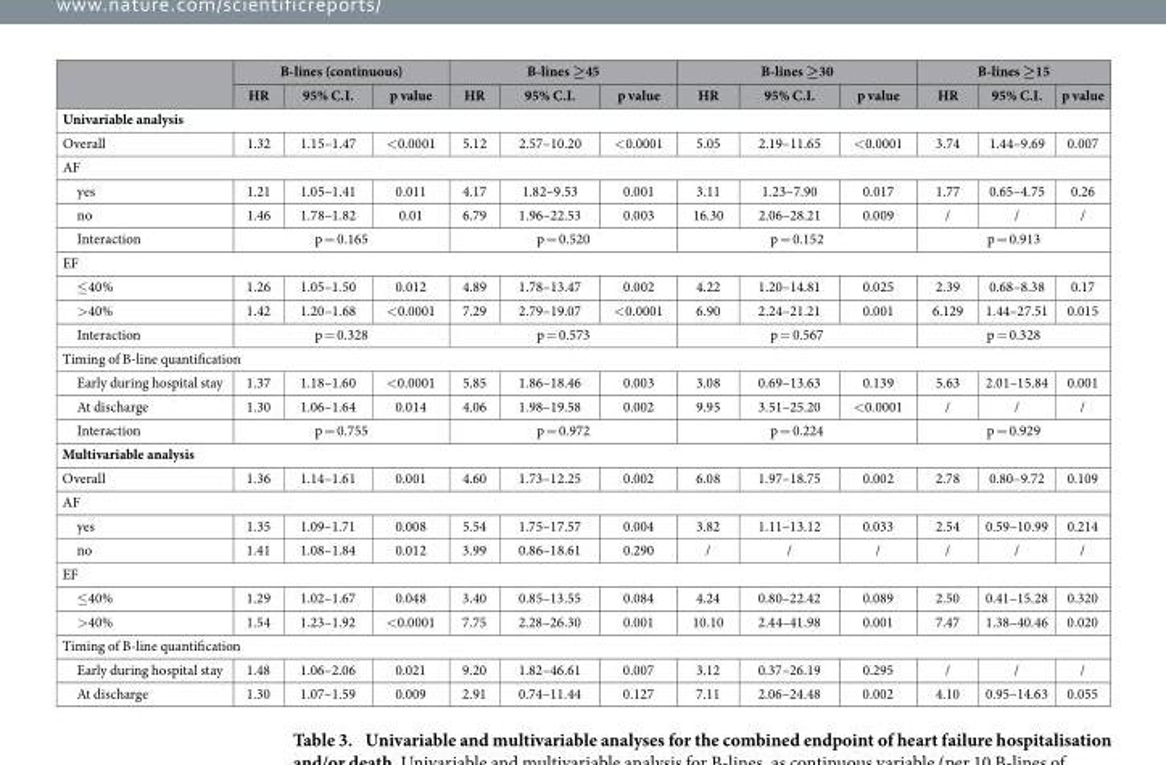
<table><thead><tr><td rowspan="2"></td><td colspan="3">B-lines (continuous)</td><td colspan="3">B-lines ≥45</td><td colspan="3">B-lines ≥30</td><td colspan="3">B-lines ≥15</td></tr><tr><td>HR</td><td>95% C.I.</td><td>p value</td><td>HR</td><td>95% C.I.</td><td>p value</td><td>HR</td><td>95% C.I.</td><td>p value</td><td>HR</td><td>95% C.I.</td><td>p value</td></tr></thead><tbody><tr><td colspan="13">Univariable analysis</td></tr><tr><td>Overall</td><td>1.32</td><td>1.15–1.47</td><td>&lt; 0.0001</td><td>5.12</td><td>2.57–10.20</td><td>&lt; 0.0001</td><td>5.05</td><td>2.19–11.65</td><td>&lt; 0.0001</td><td>3.74</td><td>1.44–9.69</td><td>0.007</td></tr><tr><td colspan="13">AF</td></tr><tr><td>yes</td><td>1.21</td><td>1.05–1.41</td><td>0.011</td><td>4.17</td><td>1.82–9.53</td><td>0.001</td><td>3.11</td><td>1.23–7.90</td><td>0.017</td><td>1.77</td><td>0.65–4.75</td><td>0.26</td></tr><tr><td>no</td><td>1.46</td><td>1.78–1.82</td><td>0.01</td><td>6.79</td><td>1.96–22.53</td><td>0.003</td><td>16.30</td><td>2.06–28.21</td><td>0.009</td><td>/</td><td>/</td><td>/</td></tr><tr><td>Interaction</td><td colspan="3">p = 0.165</td><td colspan="3">p = 0.520</td><td colspan="3">p = 0.152</td><td colspan="3">p = 0.913</td></tr><tr><td colspan="13">EF</td></tr><tr><td>≤ 40%</td><td>1.26</td><td>1.05–1.50</td><td>0.012</td><td>4.89</td><td>1.78–13.47</td><td>0.002</td><td>4.22</td><td>1.20–14.81</td><td>0.025</td><td>2.39</td><td>0.68–8.38</td><td>0.17</td></tr><tr><td>&gt; 40%</td><td>1.42</td><td>1.20–1.68</td><td>&lt; 0.0001</td><td>7.29</td><td>2.79–19.07</td><td>&lt; 0.0001</td><td>6.90</td><td>2.24–21.21</td><td>0.001</td><td>6.129</td><td>1.44–27.51</td><td>0.015</td></tr><tr><td>Interaction</td><td colspan="3">p = 0.328</td><td colspan="3">p = 0.573</td><td colspan="3">p = 0.567</td><td colspan="3">p = 0.328</td></tr><tr><td colspan="13">Timing of B-line quantification</td></tr><tr><td>Early during hospital stay</td><td>1.37</td><td>1.18–1.60</td><td>&lt; 0.0001</td><td>5.85</td><td>1.86–18.46</td><td>0.003</td><td>3.08</td><td>0.69–13.63</td><td>0.139</td><td>5.63</td><td>2.01–15.84</td><td>0.001</td></tr><tr><td>At discharge</td><td>1.30</td><td>1.06–1.64</td><td>0.014</td><td>4.06</td><td>1.98–19.58</td><td>0.002</td><td>9.95</td><td>3.51–25.20</td><td>&lt; 0.0001</td><td>/</td><td>/</td><td>/</td></tr><tr><td>Interaction</td><td colspan="3">p = 0.755</td><td colspan="3">p = 0.972</td><td colspan="3">p = 0.224</td><td colspan="3">p = 0.929</td></tr><tr><td colspan="13">Multivariable analysis</td></tr><tr><td>Overall</td><td>1.36</td><td>1.14–1.61</td><td>0.001</td><td>4.60</td><td>1.73–12.25</td><td>0.002</td><td>6.08</td><td>1.97–18.75</td><td>0.002</td><td>2.78</td><td>0.80–9.72</td><td>0.109</td></tr><tr><td colspan="13">AF</td></tr><tr><td>yes</td><td>1.35</td><td>1.09–1.71</td><td>0.008</td><td>5.54</td><td>1.75–17.57</td><td>0.004</td><td>3.82</td><td>1.11–13.12</td><td>0.033</td><td>2.54</td><td>0.59–10.99</td><td>0.214</td></tr><tr><td>no</td><td>1.41</td><td>1.08–1.84</td><td>0.012</td><td>3.99</td><td>0.86–18.61</td><td>0.290</td><td>/</td><td>/</td><td>/</td><td>/</td><td>/</td><td>/</td></tr><tr><td colspan="13">EF</td></tr><tr><td>≤ 40%</td><td>1.29</td><td>1.02–1.67</td><td>0.048</td><td>3.40</td><td>0.85–13.55</td><td>0.084</td><td>4.24</td><td>0.80–22.42</td><td>0.089</td><td>2.50</td><td>0.41–15.28</td><td>0.320</td></tr><tr><td>&gt; 40%</td><td>1.54</td><td>1.23–1.92</td><td>&lt; 0.0001</td><td>7.75</td><td>2.28–26.30</td><td>0.001</td><td>10.10</td><td>2.44–41.98</td><td>0.001</td><td>7.47</td><td>1.38–40.46</td><td>0.020</td></tr><tr><td colspan="13">Timing of B-line quantification</td></tr><tr><td>Early during hospital stay</td><td>1.48</td><td>1.06–2.06</td><td>0.021</td><td>9.20</td><td>1.82–46.61</td><td>0.007</td><td>3.12</td><td>0.37–26.19</td><td>0.295</td><td>/</td><td>/</td><td>/</td></tr><tr><td>At discharge</td><td>1.30</td><td>1.07–1.59</td><td>0.009</td><td>2.91</td><td>0.74–11.44</td><td>0.127</td><td>7.11</td><td>2.06–24.48</td><td>0.002</td><td>4.10</td><td>0.95–14.63</td><td>0.055</td></tr></tbody></table>